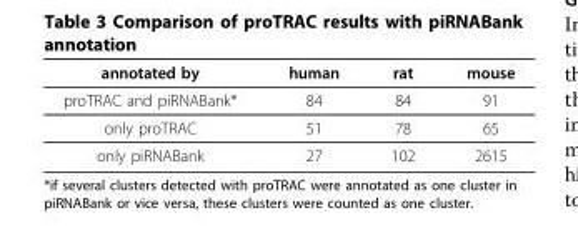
<table><thead><tr><td>annotated by</td><td>human</td><td>rat</td><td>mouse</td></tr></thead><tbody><tr><td>proTRAC and piRNABank*</td><td>84</td><td>84</td><td>91</td></tr><tr><td>only proTRAC</td><td>51</td><td>78</td><td>65</td></tr><tr><td>only piRNABank</td><td>27</td><td>102</td><td>2615</td></tr></tbody></table>